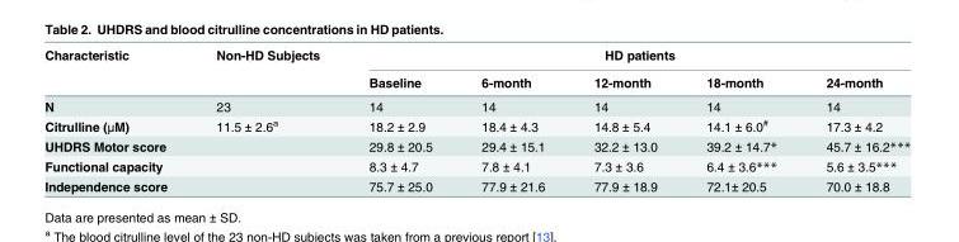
<table><thead><tr><td rowspan="2">Characteristic</td><td rowspan="2">Non-HD Subjects</td><td colspan="5">HD patients</td></tr><tr><td>Baseline</td><td>6-month</td><td>12-month</td><td>18-month</td><td>24-month</td></tr></thead><tbody><tr><td>N</td><td>23</td><td>14</td><td>14</td><td>14</td><td>14</td><td>14</td></tr><tr><td>Citrulline (μM)</td><td>11.5 ± 2.6<sup>a</sup></td><td>18.2 ± 2.9</td><td>18.4 ± 4.3</td><td>14.8 ± 5.4</td><td>14.1 ± 6.0<sup>#</sup></td><td>17.3 ± 4.2</td></tr><tr><td>UHDRS Motor score</td><td></td><td>29.8 ± 20.5</td><td>29.4 ± 15.1</td><td>32.2 ± 13.0</td><td>39.2 ± 14.7*</td><td>45.7 ± 16.2***</td></tr><tr><td>Functional capacity</td><td></td><td>8.3 ± 4.7</td><td>7.8 ± 4.1</td><td>7.3 ± 3.6</td><td>6.4 ± 3.6***</td><td>5.6 ± 3.5***</td></tr><tr><td>Independence score</td><td></td><td>75.7 ± 25.0</td><td>77.9 ± 21.6</td><td>77.9 ± 18.9</td><td>72.1± 20.5</td><td>70.0 ± 18.8</td></tr></tbody></table>